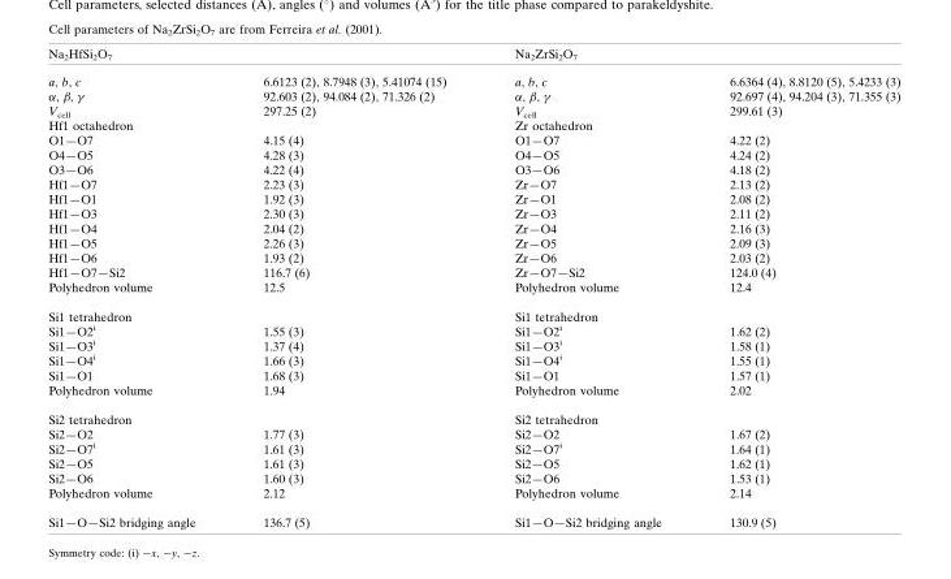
<table><thead><tr><td>Na<sub>2</sub>HfSi<sub>2</sub>O<sub>7</sub></td><td></td><td>Na<sub>2</sub>ZrSi<sub>2</sub>O<sub>7</sub></td><td></td></tr></thead><tbody><tr><td>a, b, c</td><td>6.6123 (2), 8.7948 (3), 5.41074 (15)</td><td>a, b, c</td><td>6.6364 (4), 8.8120 (5), 5.4233 (3)</td></tr><tr><td>α, β, γ</td><td>92.603 (2), 94.084 (2), 71.326 (2)</td><td>α, β, γ</td><td>92.697 (4), 94.204 (3), 71.355 (3)</td></tr><tr><td>V<sub>cell</sub></td><td>297.25 (2)</td><td>V<sub>cell</sub></td><td>299.61 (3)</td></tr><tr><td>Hf1 octahedron</td><td></td><td>Zr octahedron</td><td></td></tr><tr><td>O1—O7</td><td>4.15 (4)</td><td>O1—O7</td><td>4.22 (2)</td></tr><tr><td>O4—O5</td><td>4.28 (3)</td><td>O4—O5</td><td>4.24 (2)</td></tr><tr><td>O3—O6</td><td>4.22 (4)</td><td>O3—O6</td><td>4.18 (2)</td></tr><tr><td>Hf1—O7</td><td>2.23 (3)</td><td>Zr—O7</td><td>2.13 (2)</td></tr><tr><td>Hf1—O1</td><td>1.92 (3)</td><td>Zr—O1</td><td>2.08 (2)</td></tr><tr><td>Hf1—O3</td><td>2.30 (3)</td><td>Zr—O3</td><td>2.11 (2)</td></tr><tr><td>Hf1—O4</td><td>2.04 (2)</td><td>Zr—O4</td><td>2.16 (3)</td></tr><tr><td>Hf1—O5</td><td>2.26 (3)</td><td>Zr—O5</td><td>2.09 (3)</td></tr><tr><td>Hf1—O6</td><td>1.93 (2)</td><td>Zr—O6</td><td>2.03 (2)</td></tr><tr><td>Hf1—O7—Si2</td><td>116.7 (6)</td><td>Zr—O7—Si2</td><td>124.0 (4)</td></tr><tr><td>Polyhedron volume</td><td>12.5</td><td>Polyhedron volume</td><td>12.4</td></tr><tr><td>Si1 tetrahedron</td><td></td><td>Si1 tetrahedron</td><td></td></tr><tr><td>Si1—O2<sup>i</sup></td><td>1.55 (3)</td><td>Si1—O2<sup>i</sup></td><td>1.62 (2)</td></tr><tr><td>Si1—O3<sup>i</sup></td><td>1.37 (4)</td><td>Si1—O3<sup>i</sup></td><td>1.58 (1)</td></tr><tr><td>Si1—O4<sup>i</sup></td><td>1.66 (3)</td><td>Si1—O4<sup>i</sup></td><td>1.55 (1)</td></tr><tr><td>Si1—O1</td><td>1.68 (3)</td><td>Si1—O1</td><td>1.57 (1)</td></tr><tr><td>Polyhedron volume</td><td>1.94</td><td>Polyhedron volume</td><td>2.02</td></tr><tr><td>Si2 tetrahedron</td><td></td><td>Si2 tetrahedron</td><td></td></tr><tr><td>Si2—O2</td><td>1.77 (3)</td><td>Si2—O2</td><td>1.67 (2)</td></tr><tr><td>Si2—O7<sup>i</sup></td><td>1.61 (3)</td><td>Si2—O7<sup>i</sup></td><td>1.64 (1)</td></tr><tr><td>Si2—O5</td><td>1.61 (3)</td><td>Si2—O5</td><td>1.62 (1)</td></tr><tr><td>Si2—O6</td><td>1.60 (3)</td><td>Si2—O6</td><td>1.53 (1)</td></tr><tr><td>Polyhedron volume</td><td>2.12</td><td>Polyhedron volume</td><td>2.14</td></tr><tr><td>Si1—O—Si2 bridging angle</td><td>136.7 (5)</td><td>Si1—O—Si2 bridging angle</td><td>130.9 (5)</td></tr></tbody></table>